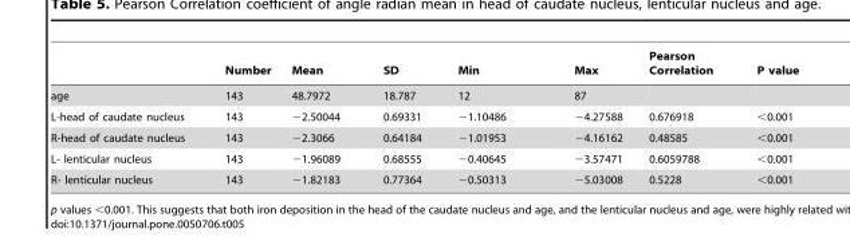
<table><thead><tr><td></td><td>Number</td><td>Mean</td><td>SD</td><td>Min</td><td>Max</td><td>Pearson Correlation</td><td>P value</td></tr></thead><tbody><tr><td>age</td><td>143</td><td>48.7972</td><td>18.787</td><td>12</td><td>87</td><td></td><td></td></tr><tr><td>L-head of caudate nucleus</td><td>143</td><td>−2.50044</td><td>0.69331</td><td>−1.10486</td><td>−4.27588</td><td>0.676918</td><td>&lt;0.001</td></tr><tr><td>R-head of caudate nucleus</td><td>143</td><td>−2.3066</td><td>0.64184</td><td>−1.01953</td><td>−4.16162</td><td>0.48585</td><td>&lt;0.001</td></tr><tr><td>L- lenticular nucleus</td><td>143</td><td>−1.96089</td><td>0.68555</td><td>−0.40645</td><td>−3.57471</td><td>0.6059788</td><td>&lt;0.001</td></tr><tr><td>R- lenticular nucleus</td><td>143</td><td>−1.82183</td><td>0.77364</td><td>−0.50313</td><td>−5.03008</td><td>0.5228</td><td>&lt;0.001</td></tr></tbody></table>